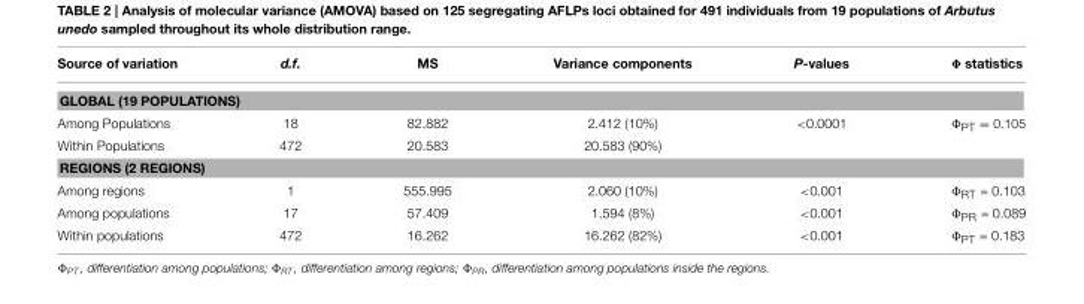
<table><thead><tr><td>Source of variation</td><td>d.f.</td><td>MS</td><td>Variance components</td><td>P-values</td><td>Φ statistics</td></tr></thead><tbody><tr><td colspan="6">GLOBAL (19 POPULATIONS)</td></tr><tr><td>Among Populations</td><td>18</td><td>82.882</td><td>2.412 (10%)</td><td>&lt;0.0001</td><td>Φ<sub>PT</sub> = 0.105</td></tr><tr><td>Within Populations</td><td>472</td><td>20.583</td><td>20.583 (90%)</td><td></td><td></td></tr><tr><td colspan="6">REGIONS (2 REGIONS)</td></tr><tr><td>Among regions</td><td>1</td><td>555.995</td><td>2.060 (10%)</td><td>&lt;0.001</td><td>Φ<sub>RT</sub> = 0.103</td></tr><tr><td>Among populations</td><td>17</td><td>57.409</td><td>1.594 (8%)</td><td>&lt;0.001</td><td>Φ<sub>PR</sub> = 0.089</td></tr><tr><td>Within populations</td><td>472</td><td>16.262</td><td>16.262 (82%)</td><td>&lt;0.001</td><td>Φ<sub>PT</sub> = 0.183</td></tr></tbody></table>